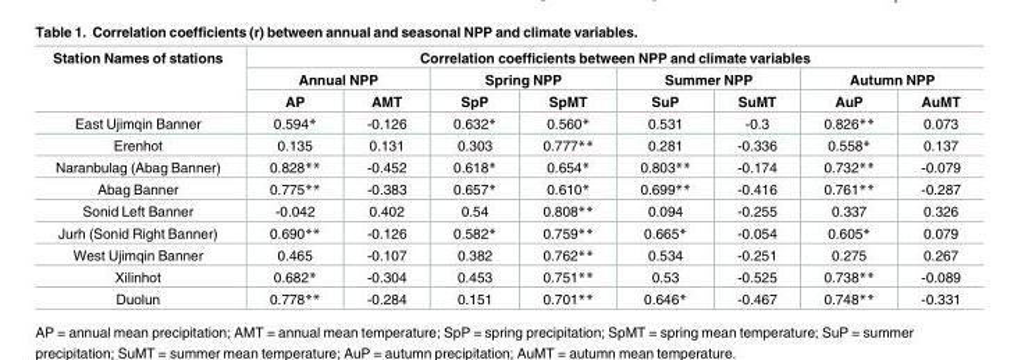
<table><thead><tr><td rowspan="3">Station Names of stations</td><td colspan="8">Correlation coefficients between NPP and climate variables</td></tr><tr><td colspan="2">Annual NPP</td><td colspan="2">Spring NPP</td><td colspan="2">Summer NPP</td><td colspan="2">Autumn NPP</td></tr><tr><td>AP</td><td>AMT</td><td>SpP</td><td>SpMT</td><td>SuP</td><td>SuMT</td><td>AuP</td><td>AuMT</td></tr></thead><tbody><tr><td>East Ujimqin Banner</td><td>0.594*</td><td>-0.126</td><td>0.632*</td><td>0.560*</td><td>0.531</td><td>-0.3</td><td>0.826**</td><td>0.073</td></tr><tr><td>Erenhot</td><td>0.135</td><td>0.131</td><td>0.303</td><td>0.777**</td><td>0.281</td><td>-0.336</td><td>0.558*</td><td>0.137</td></tr><tr><td>Naranbulag (Abag Banner)</td><td>0.828**</td><td>-0.452</td><td>0.618*</td><td>0.654*</td><td>0.803**</td><td>-0.174</td><td>0.732**</td><td>-0.079</td></tr><tr><td>Abag Banner</td><td>0.775**</td><td>-0.383</td><td>0.657*</td><td>0.610*</td><td>0.699**</td><td>-0.416</td><td>0.761**</td><td>-0.287</td></tr><tr><td>Sonid Left Banner</td><td>-0.042</td><td>0.402</td><td>0.54</td><td>0.808**</td><td>0.094</td><td>-0.255</td><td>0.337</td><td>0.326</td></tr><tr><td>Jurh (Sonid Right Banner)</td><td>0.690**</td><td>-0.126</td><td>0.582*</td><td>0.759**</td><td>0.665*</td><td>-0.054</td><td>0.605*</td><td>0.079</td></tr><tr><td>West Ujimqin Banner</td><td>0.465</td><td>-0.107</td><td>0.382</td><td>0.762**</td><td>0.534</td><td>-0.251</td><td>0.275</td><td>0.267</td></tr><tr><td>Xilinhot</td><td>0.682*</td><td>-0.304</td><td>0.453</td><td>0.751**</td><td>0.53</td><td>-0.525</td><td>0.738**</td><td>-0.089</td></tr><tr><td>Duolun</td><td>0.778**</td><td>-0.284</td><td>0.151</td><td>0.701**</td><td>0.646*</td><td>-0.467</td><td>0.748**</td><td>-0.331</td></tr></tbody></table>